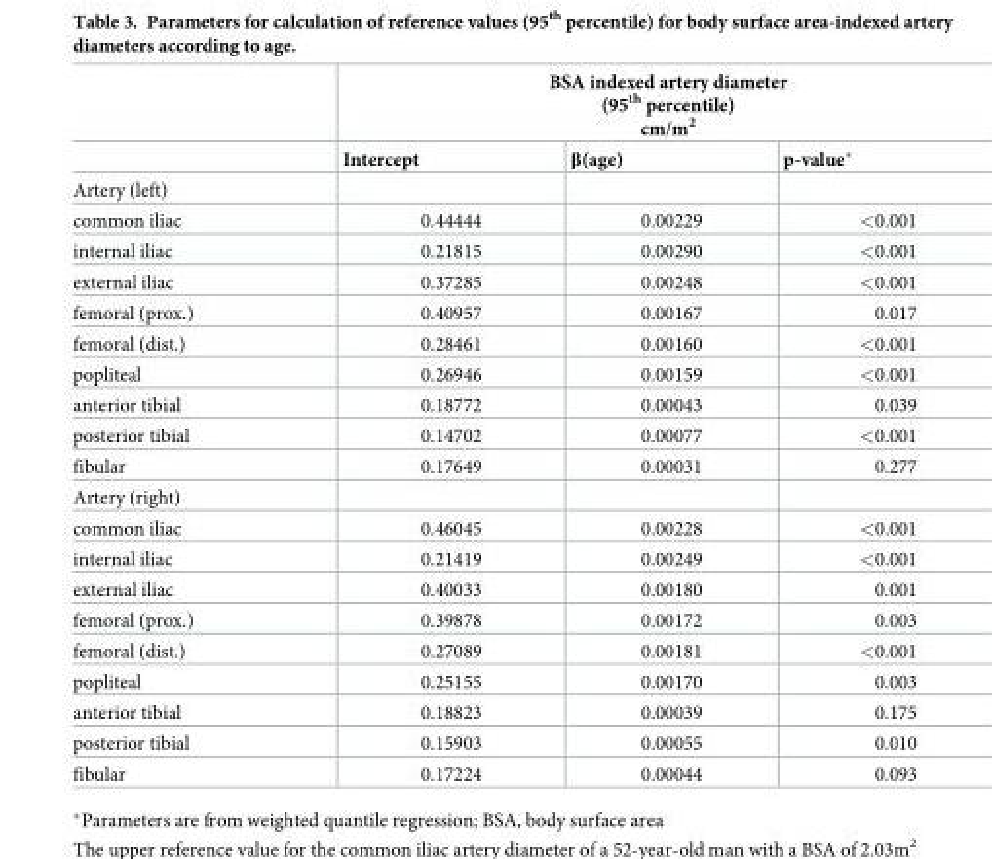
<table><thead><tr><td rowspan="2"></td><td colspan="3">BSA indexed artery diameter (95<sup>th</sup> percentile) cm/m<sup>2</sup></td></tr><tr><td>Intercept</td><td>β(age)</td><td>p-value*</td></tr></thead><tbody><tr><td colspan="4">Artery (left)</td></tr><tr><td>common iliac</td><td>0.44444</td><td>0.00229</td><td>&lt;0.001</td></tr><tr><td>internal iliac</td><td>0.21815</td><td>0.00290</td><td>&lt;0.001</td></tr><tr><td>external iliac</td><td>0.37285</td><td>0.00248</td><td>&lt;0.001</td></tr><tr><td>femoral (prox.)</td><td>0.40957</td><td>0.00167</td><td>0.017</td></tr><tr><td>femoral (dist.)</td><td>0.28461</td><td>0.00160</td><td>&lt;0.001</td></tr><tr><td>popliteal</td><td>0.26946</td><td>0.00159</td><td>&lt;0.001</td></tr><tr><td>anterior tibial</td><td>0.18772</td><td>0.00043</td><td>0.039</td></tr><tr><td>posterior tibial</td><td>0.14702</td><td>0.00077</td><td>&lt;0.001</td></tr><tr><td>fibular</td><td>0.17649</td><td>0.00031</td><td>0.277</td></tr><tr><td colspan="4">Artery (right)</td></tr><tr><td>common iliac</td><td>0.46045</td><td>0.00228</td><td>&lt;0.001</td></tr><tr><td>internal iliac</td><td>0.21419</td><td>0.00249</td><td>&lt;0.001</td></tr><tr><td>external iliac</td><td>0.40033</td><td>0.00180</td><td>0.001</td></tr><tr><td>femoral (prox.)</td><td>0.39878</td><td>0.00172</td><td>0.003</td></tr><tr><td>femoral (dist.)</td><td>0.27089</td><td>0.00181</td><td>&lt;0.001</td></tr><tr><td>popliteal</td><td>0.25155</td><td>0.00170</td><td>0.003</td></tr><tr><td>anterior tibial</td><td>0.18823</td><td>0.00039</td><td>0.175</td></tr><tr><td>posterior tibial</td><td>0.15903</td><td>0.00055</td><td>0.010</td></tr><tr><td>fibular</td><td>0.17224</td><td>0.00044</td><td>0.093</td></tr></tbody></table>